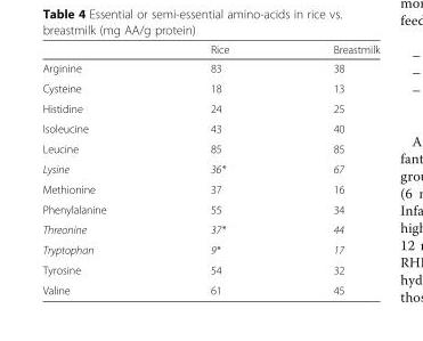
<table><thead><tr><td></td><td>Rice</td><td>Breastmilk</td></tr></thead><tbody><tr><td>Arginine</td><td>83</td><td>38</td></tr><tr><td>Cysteine</td><td>18</td><td>13</td></tr><tr><td>Histidine</td><td>24</td><td>25</td></tr><tr><td>Isoleucine</td><td>43</td><td>40</td></tr><tr><td>Leucine</td><td>85</td><td>85</td></tr><tr><td>Lysine</td><td>36*</td><td>67</td></tr><tr><td>Methionine</td><td>37</td><td>16</td></tr><tr><td>Phenylalanine</td><td>55</td><td>34</td></tr><tr><td>Threonine</td><td>37*</td><td>44</td></tr><tr><td>Tryptophan</td><td>9*</td><td>17</td></tr><tr><td>Tyrosine</td><td>54</td><td>32</td></tr><tr><td>Valine</td><td>61</td><td>45</td></tr></tbody></table>